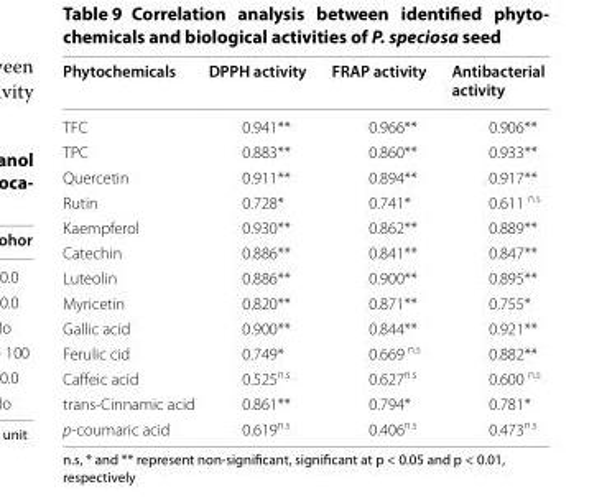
<table><thead><tr><td>Phytochemicals</td><td>DPPH activity</td><td>FRAP activity</td><td>Antibacterial activity</td></tr></thead><tbody><tr><td>TFC</td><td>0.941**</td><td>0.966**</td><td>0.906**</td></tr><tr><td>TPC</td><td>0.883**</td><td>0.860**</td><td>0.933**</td></tr><tr><td>Quercetin</td><td>0.911**</td><td>0.894**</td><td>0.917**</td></tr><tr><td>Rutin</td><td>0.728*</td><td>0.741*</td><td>0.611 <sup>n.s</sup></td></tr><tr><td>Kaempferol</td><td>0.930**</td><td>0.862**</td><td>0.889**</td></tr><tr><td>Catechin</td><td>0.886**</td><td>0.841**</td><td>0.847**</td></tr><tr><td>Luteolin</td><td>0.886**</td><td>0.900**</td><td>0.895**</td></tr><tr><td>Myricetin</td><td>0.820**</td><td>0.871**</td><td>0.755*</td></tr><tr><td>Gallic acid</td><td>0.900**</td><td>0.844**</td><td>0.921**</td></tr><tr><td>Ferulic cid</td><td>0.749*</td><td>0.669 <sup>n.s</sup></td><td>0.882**</td></tr><tr><td>Caffeic acid</td><td>0.525<sup>n.s</sup></td><td>0.627<sup>n.s</sup></td><td>0.600 <sup>n.s</sup></td></tr><tr><td>trans-Cinnamic acid</td><td>0.861**</td><td>0.794*</td><td>0.781*</td></tr><tr><td>p-coumaric acid</td><td>0.619<sup>n.s</sup></td><td>0.406<sup>n.s</sup></td><td>0.473<sup>n.s</sup></td></tr></tbody></table>